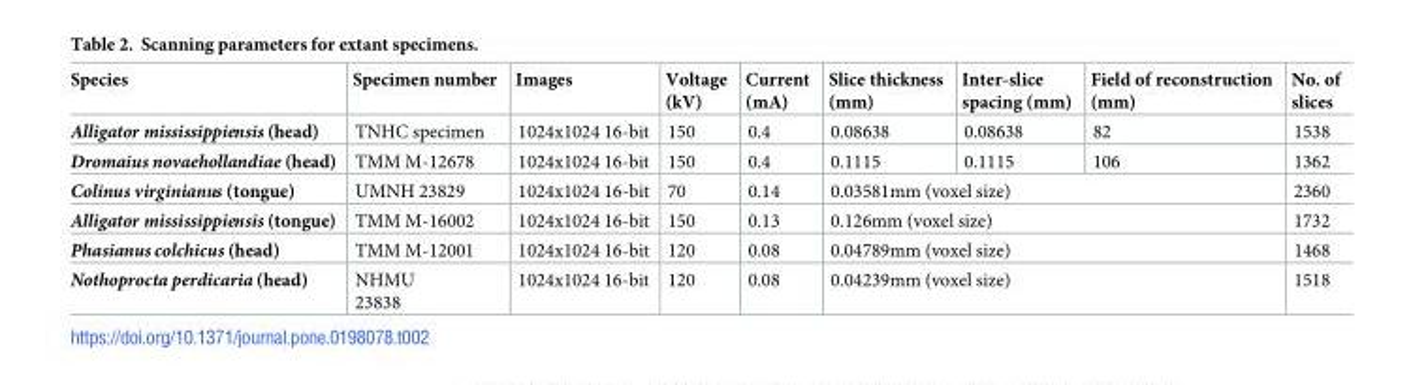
<table><thead><tr><td>Species</td><td>Specimen number</td><td>Images</td><td>Voltage (kV)</td><td>Current (mA)</td><td>Slice thickness (mm)</td><td>Inter-slice spacing (mm)</td><td>Field of reconstruction (mm)</td><td>No. of slices</td></tr></thead><tbody><tr><td>Alligator mississippiensis (head)</td><td>TNHC specimen</td><td>1024x1024 16-bit</td><td>150</td><td>0.4</td><td>0.08638</td><td>0.08638</td><td>82</td><td>1538</td></tr><tr><td>Dromaius novaehollandiae (head)</td><td>TMM M-12678</td><td>1024x1024 16-bit</td><td>150</td><td>0.4</td><td>0.1115</td><td>0.1115</td><td>106</td><td>1362</td></tr><tr><td>Colinus virginianus (tongue)</td><td>UMNH 23829</td><td>1024x1024 16-bit</td><td>70</td><td>0.14</td><td colspan="3">0.03581mm (voxel size)</td><td>2360</td></tr><tr><td>Alligator mississippiensis (tongue)</td><td>TMM M-16002</td><td>1024x1024 16-bit</td><td>150</td><td>0.13</td><td colspan="3">0.126mm (voxel size)</td><td>1732</td></tr><tr><td>Phasianus colchicus (head)</td><td>TMM M-12001</td><td>1024x1024 16-bit</td><td>120</td><td>0.08</td><td colspan="3">0.04789mm (voxel size)</td><td>1468</td></tr><tr><td>Nothoprocta perdicaria (head)</td><td>NHMU 23838</td><td>1024x1024 16-bit</td><td>120</td><td>0.08</td><td colspan="3">0.04239mm (voxel size)</td><td>1518</td></tr></tbody></table>